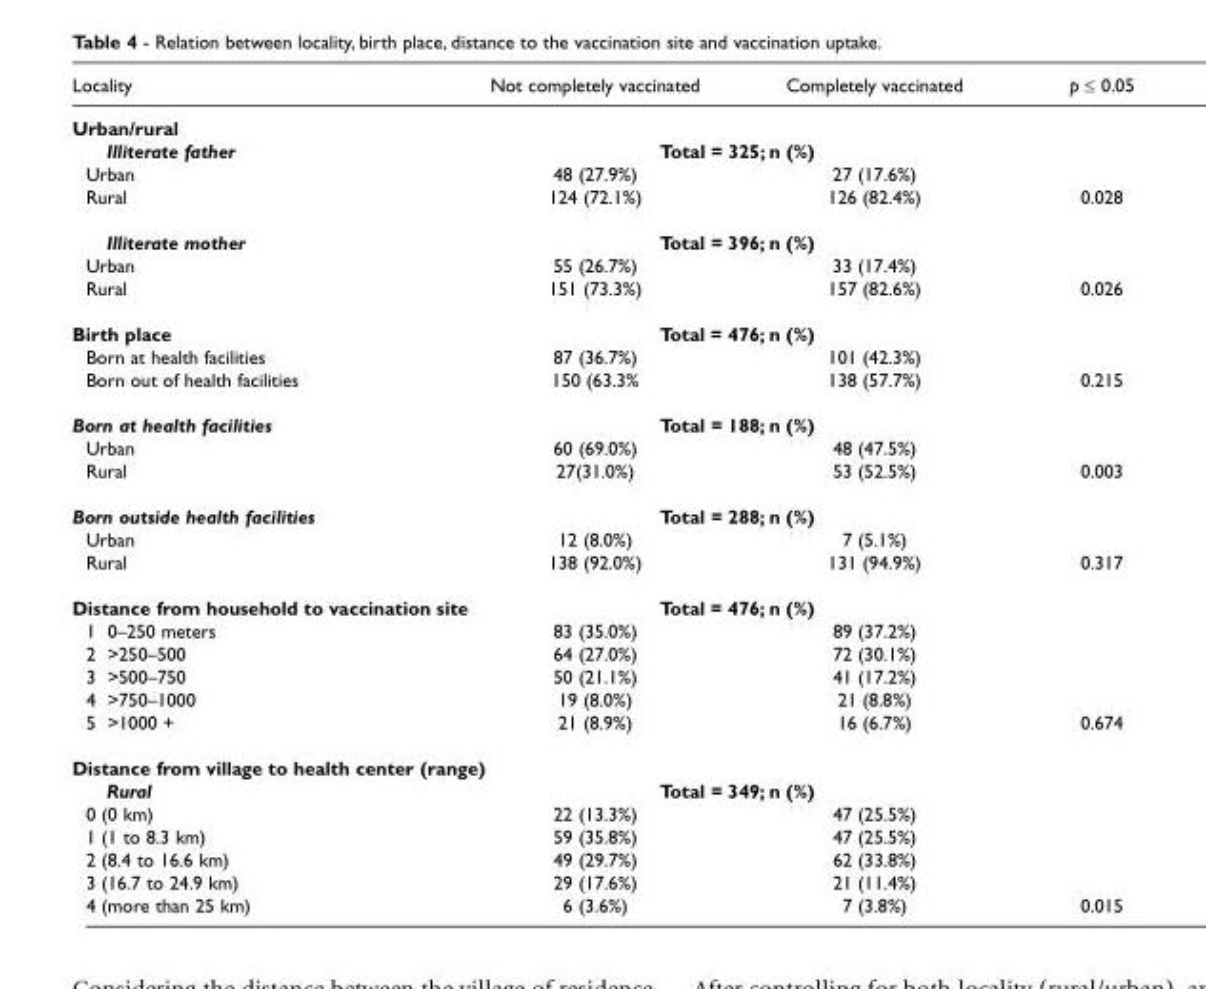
<table><thead><tr><td>Locality</td><td>Not completely vaccinated</td><td>Completely vaccinated</td><td>p ≤ 0.05</td></tr></thead><tbody><tr><td colspan="4">Urban/rural</td></tr><tr><td>Illiterate father</td><td colspan="2">Total = 325; n (%)</td><td></td></tr><tr><td>Urban</td><td>48 (27.9%)</td><td>27 (17.6%)</td><td></td></tr><tr><td>Rural</td><td>124 (72.1%)</td><td>126 (82.4%)</td><td>0.028</td></tr><tr><td>Illiterate mother</td><td colspan="2">Total = 396; n (%)</td><td></td></tr><tr><td>Urban</td><td>55 (26.7%)</td><td>33 (17.4%)</td><td></td></tr><tr><td>Rural</td><td>151 (73.3%)</td><td>157 (82.6%)</td><td>0.026</td></tr><tr><td>Birth place</td><td colspan="2">Total = 476; n (%)</td><td></td></tr><tr><td>Born at health facilities</td><td>87 (36.7%)</td><td>101 (42.3%)</td><td></td></tr><tr><td>Born out of health facilities</td><td>150 (63.3%</td><td>138 (57.7%)</td><td>0.215</td></tr><tr><td>Born at health facilities</td><td colspan="2">Total = 188; n (%)</td><td></td></tr><tr><td>Urban</td><td>60 (69.0%)</td><td>48 (47.5%)</td><td></td></tr><tr><td>Rural</td><td>27(31.0%)</td><td>53 (52.5%)</td><td>0.003</td></tr><tr><td>Born outside health facilities</td><td colspan="2">Total = 288; n (%)</td><td></td></tr><tr><td>Urban</td><td>12 (8.0%)</td><td>7 (5.1%)</td><td></td></tr><tr><td>Rural</td><td>138 (92.0%)</td><td>131 (94.9%)</td><td>0.317</td></tr><tr><td>Distance from household to vaccination site</td><td colspan="2">Total = 476; n (%)</td><td></td></tr><tr><td>1 0–250 meters</td><td>83 (35.0%)</td><td>89 (37.2%)</td><td></td></tr><tr><td>2 &gt;250–500</td><td>64 (27.0%)</td><td>72 (30.1%)</td><td></td></tr><tr><td>3 &gt;500–750</td><td>50 (21.1%)</td><td>41 (17.2%)</td><td></td></tr><tr><td>4 &gt;750–1000</td><td>19 (8.0%)</td><td>21 (8.8%)</td><td></td></tr><tr><td>5 &gt;1000 +</td><td>21 (8.9%)</td><td>16 (6.7%)</td><td>0.674</td></tr><tr><td colspan="4">Distance from village to health center (range)</td></tr><tr><td>Rural</td><td colspan="2">Total = 349; n (%)</td><td></td></tr><tr><td>0 (0 km)</td><td>22 (13.3%)</td><td>47 (25.5%)</td><td></td></tr><tr><td>1 (1 to 8.3 km)</td><td>59 (35.8%)</td><td>47 (25.5%)</td><td></td></tr><tr><td>2 (8.4 to 16.6 km)</td><td>49 (29.7%)</td><td>62 (33.8%)</td><td></td></tr><tr><td>3 (16.7 to 24.9 km)</td><td>29 (17.6%)</td><td>21 (11.4%)</td><td></td></tr><tr><td>4 (more than 25 km)</td><td>6 (3.6%)</td><td>7 (3.8%)</td><td>0.015</td></tr></tbody></table>